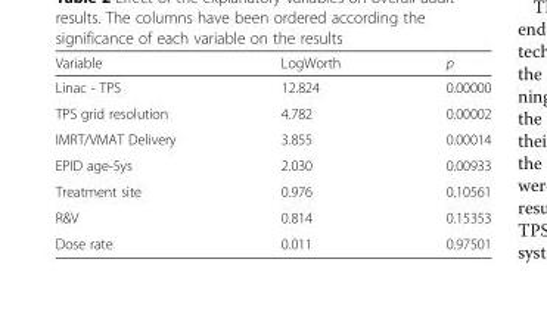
<table><thead><tr><td>Variable</td><td>LogWorth</td><td>p</td></tr></thead><tbody><tr><td>Linac - TPS</td><td>12.824</td><td>0.00000</td></tr><tr><td>TPS grid resolution</td><td>4.782</td><td>0.00002</td></tr><tr><td>IMRT/VMAT Delivery</td><td>3.855</td><td>0.00014</td></tr><tr><td>EPID age-5ys</td><td>2.030</td><td>0.00933</td></tr><tr><td>Treatment site</td><td>0.976</td><td>0.10561</td></tr><tr><td>R&amp;V</td><td>0.814</td><td>0.15353</td></tr><tr><td>Dose rate</td><td>0.011</td><td>0.97501</td></tr></tbody></table>